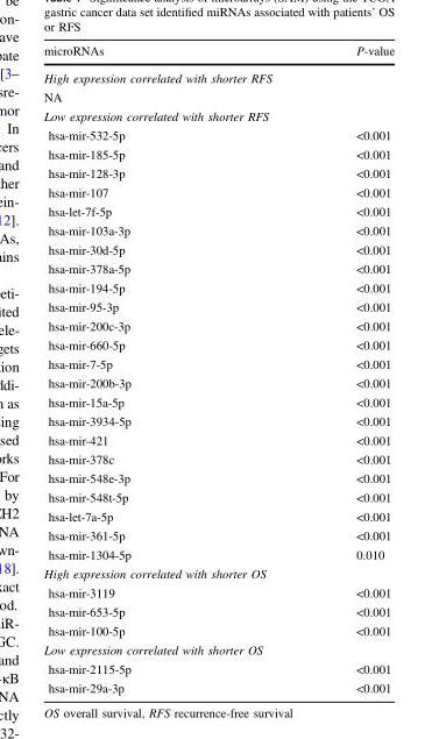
<table><thead><tr><td>microRNAs</td><td>P-value</td></tr></thead><tbody><tr><td colspan="2">High expression correlated with shorter RFS</td></tr><tr><td colspan="2">NA</td></tr><tr><td colspan="2">Low expression correlated with shorter RFS</td></tr><tr><td>hsa-mir-532-5p</td><td>&lt;0.001</td></tr><tr><td>hsa-mir-185-5p</td><td>&lt;0.001</td></tr><tr><td>hsa-mir-128-3p</td><td>&lt;0.001</td></tr><tr><td>hsa-mir-107</td><td>&lt;0.001</td></tr><tr><td>hsa-let-7f-5p</td><td>&lt;0.001</td></tr><tr><td>hsa-mir-103a-3p</td><td>&lt;0.001</td></tr><tr><td>hsa-mir-30d-5p</td><td>&lt;0.001</td></tr><tr><td>hsa-mir-378a-5p</td><td>&lt;0.001</td></tr><tr><td>hsa-mir-194-5p</td><td>&lt;0.001</td></tr><tr><td>hsa-mir-95-3p</td><td>&lt;0.001</td></tr><tr><td>hsa-mir-200c-3p</td><td>&lt;0.001</td></tr><tr><td>hsa-mir-660-5p</td><td>&lt;0.001</td></tr><tr><td>hsa-mir-7-5p</td><td>&lt;0.001</td></tr><tr><td>hsa-mir-200b-3p</td><td>&lt;0.001</td></tr><tr><td>hsa-mir-15a-5p</td><td>&lt;0.001</td></tr><tr><td>hsa-mir-3934-5p</td><td>&lt;0.001</td></tr><tr><td>hsa-mir-421</td><td>&lt;0.001</td></tr><tr><td>hsa-mir-378c</td><td>&lt;0.001</td></tr><tr><td>hsa-mir-548e-3p</td><td>&lt;0.001</td></tr><tr><td>hsa-mir-548t-5p</td><td>&lt;0.001</td></tr><tr><td>hsa-let-7a-5p</td><td>&lt;0.001</td></tr><tr><td>hsa-mir-361-5p</td><td>&lt;0.001</td></tr><tr><td>hsa-mir-1304-5p</td><td>0.010</td></tr><tr><td colspan="2">High expression correlated with shorter OS</td></tr><tr><td>hsa-mir-3119</td><td>&lt;0.001</td></tr><tr><td>hsa-mir-653-5p</td><td>&lt;0.001</td></tr><tr><td>hsa-mir-100-5p</td><td>&lt;0.001</td></tr><tr><td colspan="2">Low expression correlated with shorter OS</td></tr><tr><td>hsa-mir-2115-5p</td><td>&lt;0.001</td></tr><tr><td>hsa-mir-29a-3p</td><td>&lt;0.001</td></tr></tbody></table>